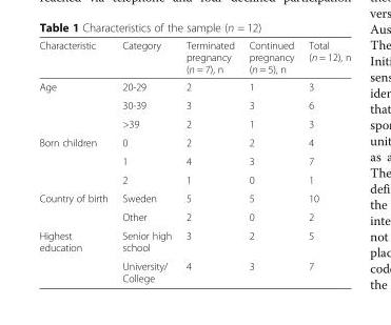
<table><thead><tr><td>Characteristic</td><td>Category</td><td>Terminated pregnancy (n = 7), n</td><td>Continued pregnancy (n = 5), n</td><td>Total (n = 12), n</td></tr></thead><tbody><tr><td rowspan="3">Age</td><td>20-29</td><td>2</td><td>1</td><td>3</td></tr><tr><td>30-39</td><td>3</td><td>3</td><td>6</td></tr><tr><td>&gt;39</td><td>2</td><td>1</td><td>3</td></tr><tr><td rowspan="3">Born children</td><td>0</td><td>2</td><td>2</td><td>4</td></tr><tr><td>1</td><td>4</td><td>3</td><td>7</td></tr><tr><td>2</td><td>1</td><td>0</td><td>1</td></tr><tr><td rowspan="2">Country of birth</td><td>Sweden</td><td>5</td><td>5</td><td>10</td></tr><tr><td>Other</td><td>2</td><td>0</td><td>2</td></tr><tr><td rowspan="2">Highest education</td><td>Senior high school</td><td>3</td><td>2</td><td>5</td></tr><tr><td>University/ College</td><td>4</td><td>3</td><td>7</td></tr></tbody></table>